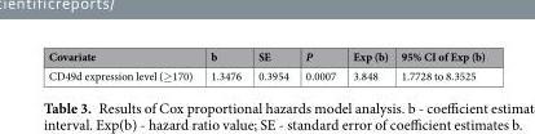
<table><thead><tr><td>Covariate</td><td>b</td><td>SE</td><td>P</td><td>Exp (b)</td><td>95% CI of Exp (b)</td></tr></thead><tbody><tr><td>CD49d expression level (≥170)</td><td>1.3476</td><td>0.3954</td><td>0.0007</td><td>3.848</td><td>1.7728 to 8.3525</td></tr></tbody></table>